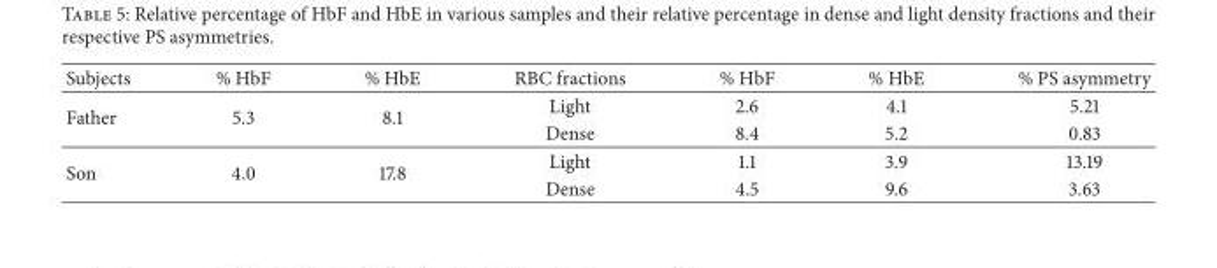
<table><thead><tr><td>Subjects</td><td>% HbF</td><td>% HbE</td><td>RBC fractions</td><td>% HbF</td><td>% HbE</td><td>% PS asymmetry</td></tr></thead><tbody><tr><td rowspan="2">Father</td><td rowspan="2">5.3</td><td rowspan="2">8.1</td><td>Light</td><td>2.6</td><td>4.1</td><td>5.21</td></tr><tr><td>Dense</td><td>8.4</td><td>5.2</td><td>0.83</td></tr><tr><td rowspan="2">Son</td><td rowspan="2">4.0</td><td rowspan="2">17.8</td><td>Light</td><td>1.1</td><td>3.9</td><td>13.19</td></tr><tr><td>Dense</td><td>4.5</td><td>9.6</td><td>3.63</td></tr></tbody></table>